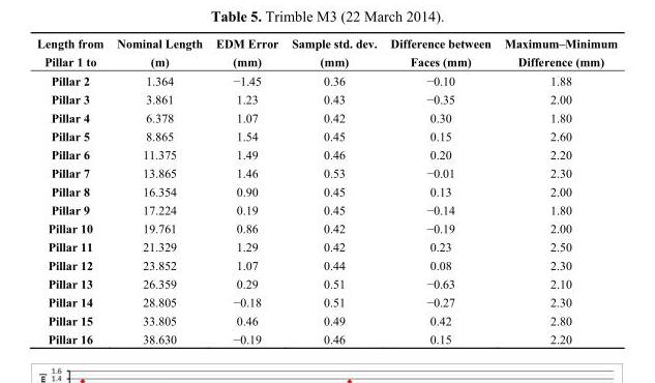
<table><thead><tr><td>Length from Pillar 1 to</td><td>Nominal Length (m)</td><td>EDM Error (mm)</td><td>Sample std. dev. (mm)</td><td>Difference between Faces (mm)</td><td>Maximum–Minimum Difference (mm)</td></tr></thead><tbody><tr><td>Pillar 2</td><td>1.364</td><td>−1.45</td><td>0.36</td><td>−0.10</td><td>1.88</td></tr><tr><td>Pillar 3</td><td>3.861</td><td>1.23</td><td>0.43</td><td>−0.35</td><td>2.00</td></tr><tr><td>Pillar 4</td><td>6.378</td><td>1.07</td><td>0.42</td><td>0.30</td><td>1.80</td></tr><tr><td>Pillar 5</td><td>8.865</td><td>1.54</td><td>0.45</td><td>0.15</td><td>2.60</td></tr><tr><td>Pillar 6</td><td>11.375</td><td>1.49</td><td>0.46</td><td>0.20</td><td>2.20</td></tr><tr><td>Pillar 7</td><td>13.865</td><td>1.46</td><td>0.53</td><td>−0.01</td><td>2.30</td></tr><tr><td>Pillar 8</td><td>16.354</td><td>0.90</td><td>0.45</td><td>0.13</td><td>2.00</td></tr><tr><td>Pillar 9</td><td>17.224</td><td>0.19</td><td>0.45</td><td>−0.14</td><td>1.80</td></tr><tr><td>Pillar 10</td><td>19.761</td><td>0.86</td><td>0.42</td><td>−0.19</td><td>2.00</td></tr><tr><td>Pillar 11</td><td>21.329</td><td>1.29</td><td>0.42</td><td>0.23</td><td>2.50</td></tr><tr><td>Pillar 12</td><td>23.852</td><td>1.07</td><td>0.44</td><td>0.08</td><td>2.30</td></tr><tr><td>Pillar 13</td><td>26.359</td><td>0.29</td><td>0.51</td><td>−0.63</td><td>2.10</td></tr><tr><td>Pillar 14</td><td>28.805</td><td>−0.18</td><td>0.51</td><td>−0.27</td><td>2.30</td></tr><tr><td>Pillar 15</td><td>33.805</td><td>0.46</td><td>0.49</td><td>0.42</td><td>2.80</td></tr><tr><td>Pillar 16</td><td>38.630</td><td>−0.19</td><td>0.46</td><td>0.15</td><td>2.20</td></tr></tbody></table>